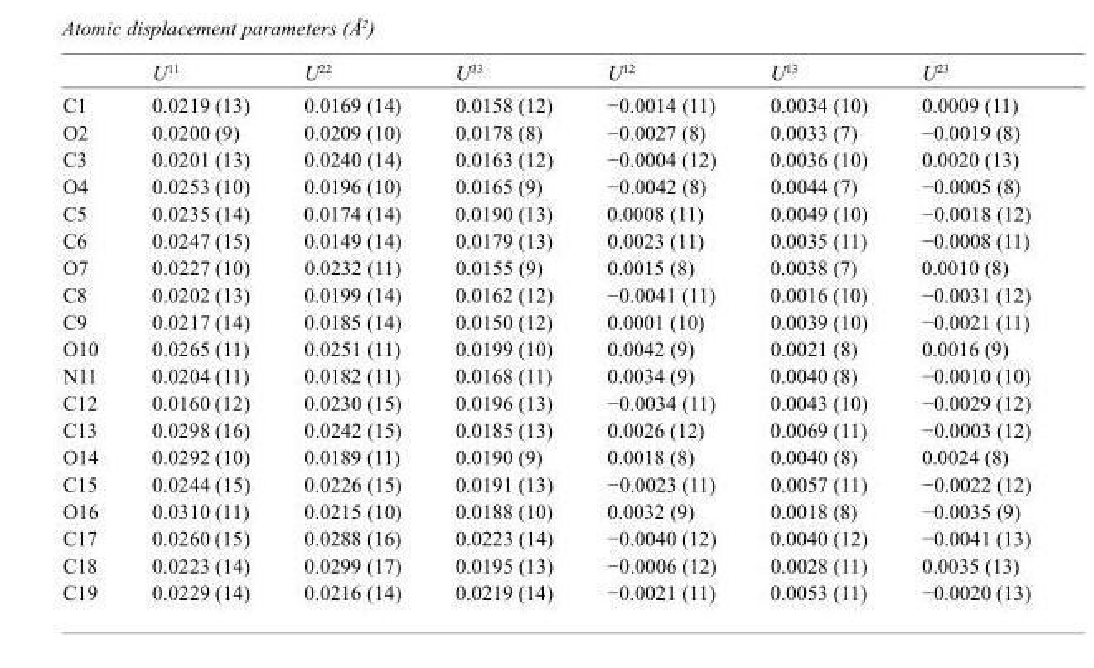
<table><thead><tr><td></td><td>U<sup>11</sup></td><td>U<sup>22</sup></td><td>U<sup>33</sup></td><td>U<sup>12</sup></td><td>U<sup>13</sup></td><td>U<sup>23</sup></td></tr></thead><tbody><tr><td>C1</td><td>0.0219 (13)</td><td>0.0169 (14)</td><td>0.0158 (12)</td><td>−0.0014 (11)</td><td>0.0034 (10)</td><td>0.0009 (11)</td></tr><tr><td>O2</td><td>0.0200 (9)</td><td>0.0209 (10)</td><td>0.0178 (8)</td><td>−0.0027 (8)</td><td>0.0033 (7)</td><td>−0.0019 (8)</td></tr><tr><td>C3</td><td>0.0201 (13)</td><td>0.0240 (14)</td><td>0.0163 (12)</td><td>−0.0004 (12)</td><td>0.0036 (10)</td><td>0.0020 (13)</td></tr><tr><td>O4</td><td>0.0253 (10)</td><td>0.0196 (10)</td><td>0.0165 (9)</td><td>−0.0042 (8)</td><td>0.0044 (7)</td><td>−0.0005 (8)</td></tr><tr><td>C5</td><td>0.0235 (14)</td><td>0.0174 (14)</td><td>0.0190 (13)</td><td>0.0008 (11)</td><td>0.0049 (10)</td><td>−0.0018 (12)</td></tr><tr><td>C6</td><td>0.0247 (15)</td><td>0.0149 (14)</td><td>0.0179 (13)</td><td>0.0023 (11)</td><td>0.0035 (11)</td><td>−0.0008 (11)</td></tr><tr><td>O7</td><td>0.0227 (10)</td><td>0.0232 (11)</td><td>0.0155 (9)</td><td>0.0015 (8)</td><td>0.0038 (7)</td><td>0.0010 (8)</td></tr><tr><td>C8</td><td>0.0202 (13)</td><td>0.0199 (14)</td><td>0.0162 (12)</td><td>−0.0041 (11)</td><td>0.0016 (10)</td><td>−0.0031 (12)</td></tr><tr><td>C9</td><td>0.0217 (14)</td><td>0.0185 (14)</td><td>0.0150 (12)</td><td>0.0001 (10)</td><td>0.0039 (10)</td><td>−0.0021 (11)</td></tr><tr><td>O10</td><td>0.0265 (11)</td><td>0.0251 (11)</td><td>0.0199 (10)</td><td>0.0042 (9)</td><td>0.0021 (8)</td><td>0.0016 (9)</td></tr><tr><td>N11</td><td>0.0204 (11)</td><td>0.0182 (11)</td><td>0.0168 (11)</td><td>0.0034 (9)</td><td>0.0040 (8)</td><td>−0.0010 (10)</td></tr><tr><td>C12</td><td>0.0160 (12)</td><td>0.0230 (15)</td><td>0.0196 (13)</td><td>−0.0034 (11)</td><td>0.0043 (10)</td><td>−0.0029 (12)</td></tr><tr><td>C13</td><td>0.0298 (16)</td><td>0.0242 (15)</td><td>0.0185 (13)</td><td>0.0026 (12)</td><td>0.0069 (11)</td><td>−0.0003 (12)</td></tr><tr><td>O14</td><td>0.0292 (10)</td><td>0.0189 (11)</td><td>0.0190 (9)</td><td>0.0018 (8)</td><td>0.0040 (8)</td><td>0.0024 (8)</td></tr><tr><td>C15</td><td>0.0244 (15)</td><td>0.0226 (15)</td><td>0.0191 (13)</td><td>−0.0023 (11)</td><td>0.0057 (11)</td><td>−0.0022 (12)</td></tr><tr><td>O16</td><td>0.0310 (11)</td><td>0.0215 (10)</td><td>0.0188 (10)</td><td>0.0032 (9)</td><td>0.0018 (8)</td><td>−0.0035 (9)</td></tr><tr><td>C17</td><td>0.0260 (15)</td><td>0.0288 (16)</td><td>0.0223 (14)</td><td>−0.0040 (12)</td><td>0.0040 (12)</td><td>−0.0041 (13)</td></tr><tr><td>C18</td><td>0.0223 (14)</td><td>0.0299 (17)</td><td>0.0195 (13)</td><td>−0.0006 (12)</td><td>0.0028 (11)</td><td>0.0035 (13)</td></tr><tr><td>C19</td><td>0.0229 (14)</td><td>0.0216 (14)</td><td>0.0219 (14)</td><td>−0.0021 (11)</td><td>0.0053 (11)</td><td>−0.0020 (13)</td></tr></tbody></table>